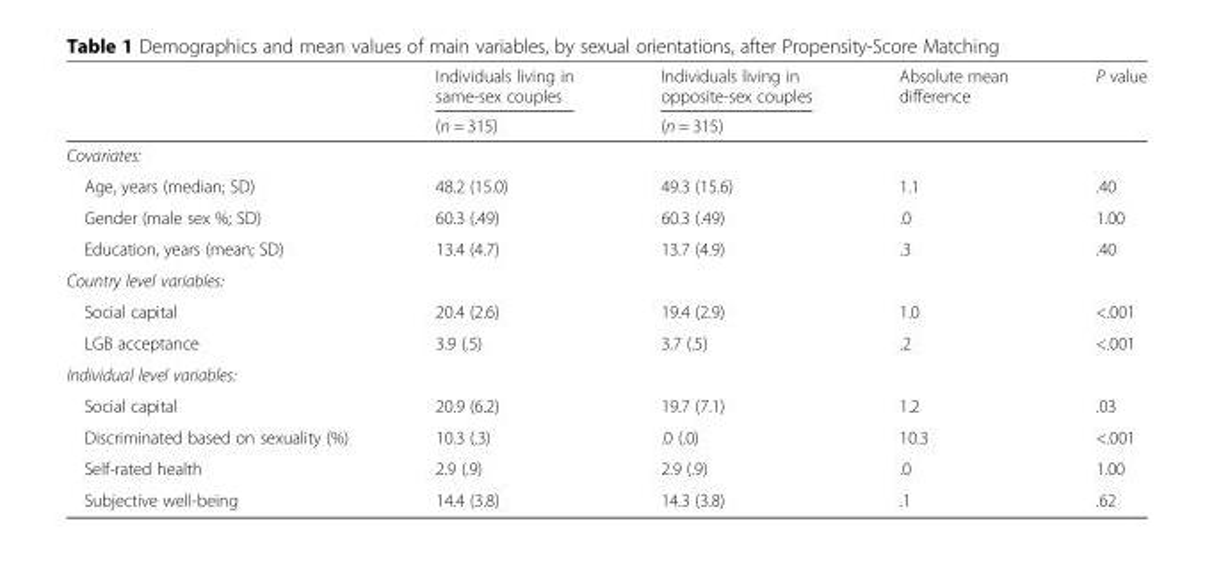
<table><thead><tr><td rowspan="2"></td><td rowspan="2">Individuals living in same-sex couples (n = 315)</td><td rowspan="2">Individuals living in opposite-sex couples (n = 315)</td><td rowspan="2">Absolute mean difference</td><td rowspan="2">P value</td></tr><tr></tr></thead><tbody><tr><td colspan="5">Covariates:</td></tr><tr><td>Age, years (median; SD)</td><td>48.2 (15.0)</td><td>49.3 (15.6)</td><td>1.1</td><td>.40</td></tr><tr><td>Gender (male sex %; SD)</td><td>60.3 (.49)</td><td>60.3 (.49)</td><td>.0</td><td>1.00</td></tr><tr><td>Education, years (mean; SD)</td><td>13.4 (4.7)</td><td>13.7 (4.9)</td><td>.3</td><td>.40</td></tr><tr><td colspan="5">Country level variables:</td></tr><tr><td>Social capital</td><td>20.4 (2.6)</td><td>19.4 (2.9)</td><td>1.0</td><td>&lt;.001</td></tr><tr><td>LGB acceptance</td><td>3.9 (.5)</td><td>3.7 (.5)</td><td>.2</td><td>&lt;.001</td></tr><tr><td colspan="5">Individual level variables:</td></tr><tr><td>Social capital</td><td>20.9 (6.2)</td><td>19.7 (7.1)</td><td>1.2</td><td>.03</td></tr><tr><td>Discriminated based on sexuality (%)</td><td>10.3 (.3)</td><td>.0 (.0)</td><td>10.3</td><td>&lt;.001</td></tr><tr><td>Self-rated health</td><td>2.9 (.9)</td><td>2.9 (.9)</td><td>.0</td><td>1.00</td></tr><tr><td>Subjective well-being</td><td>14.4 (3.8)</td><td>14.3 (3.8)</td><td>.1</td><td>.62</td></tr></tbody></table>